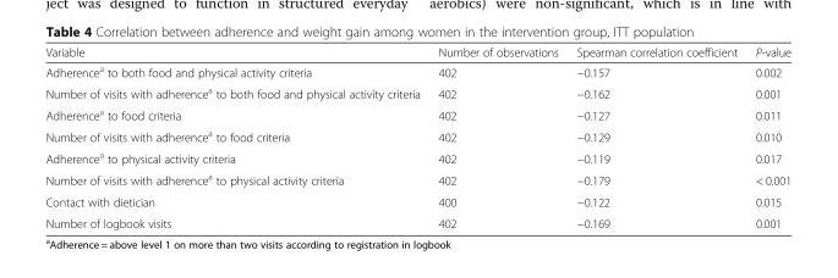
<table><thead><tr><td>Variable</td><td>Number of observations</td><td>Spearman correlation coefficient</td><td>P-value</td></tr></thead><tbody><tr><td>Adherence<sup>a</sup> to both food and physical activity criteria</td><td>402</td><td>−0.157</td><td>0.002</td></tr><tr><td>Number of visits with adherence<sup>a</sup> to both food and physical activity criteria</td><td>402</td><td>−0.162</td><td>0.001</td></tr><tr><td>Adherence<sup>a</sup> to food criteria</td><td>402</td><td>−0.127</td><td>0.011</td></tr><tr><td>Number of visits with adherence<sup>a</sup> to food criteria</td><td>402</td><td>−0.129</td><td>0.010</td></tr><tr><td>Adherence<sup>a</sup> to physical activity criteria</td><td>402</td><td>−0.119</td><td>0.017</td></tr><tr><td>Number of visits with adherence<sup>a</sup> to physical activity criteria</td><td>402</td><td>−0.179</td><td>&lt; 0.001</td></tr><tr><td>Contact with dietician</td><td>400</td><td>−0.122</td><td>0.015</td></tr><tr><td>Number of logbook visits</td><td>402</td><td>−0.169</td><td>0.001</td></tr></tbody></table>